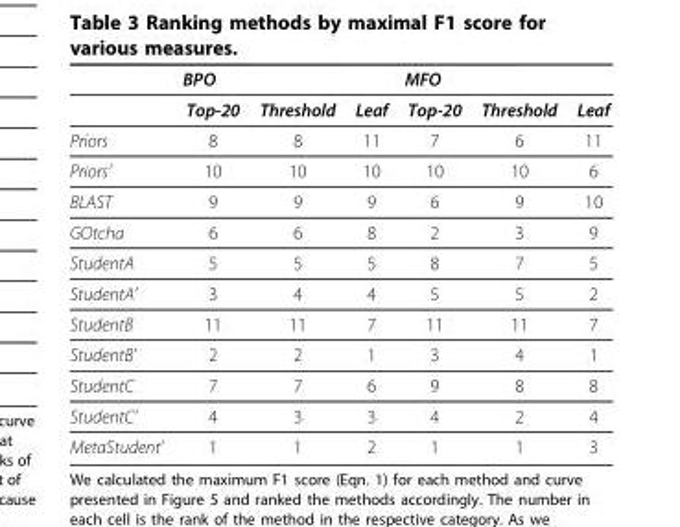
<table><thead><tr><td rowspan="2"></td><td colspan="3">BPO</td><td colspan="3">MFO</td></tr><tr><td>Top-20</td><td>Threshold</td><td>Leaf</td><td>Top-20</td><td>Threshold</td><td>Leaf</td></tr></thead><tbody><tr><td>Priors</td><td>8</td><td>8</td><td>11</td><td>7</td><td>6</td><td>11</td></tr><tr><td>Priors’</td><td>10</td><td>10</td><td>10</td><td>10</td><td>10</td><td>6</td></tr><tr><td>BLAST</td><td>9</td><td>9</td><td>9</td><td>6</td><td>9</td><td>10</td></tr><tr><td>GOtcha</td><td>6</td><td>6</td><td>8</td><td>2</td><td>3</td><td>9</td></tr><tr><td>StudentA</td><td>5</td><td>5</td><td>5</td><td>8</td><td>7</td><td>5</td></tr><tr><td>StudentA’</td><td>3</td><td>4</td><td>4</td><td>5</td><td>5</td><td>2</td></tr><tr><td>StudentB</td><td>11</td><td>11</td><td>7</td><td>11</td><td>11</td><td>7</td></tr><tr><td>StudentB’</td><td>2</td><td>2</td><td>1</td><td>3</td><td>4</td><td>1</td></tr><tr><td>StudentC</td><td>7</td><td>7</td><td>6</td><td>9</td><td>8</td><td>8</td></tr><tr><td>StudentC’</td><td>4</td><td>3</td><td>3</td><td>4</td><td>2</td><td>4</td></tr><tr><td>MetaStudent’</td><td>1</td><td>1</td><td>2</td><td>1</td><td>1</td><td>3</td></tr></tbody></table>